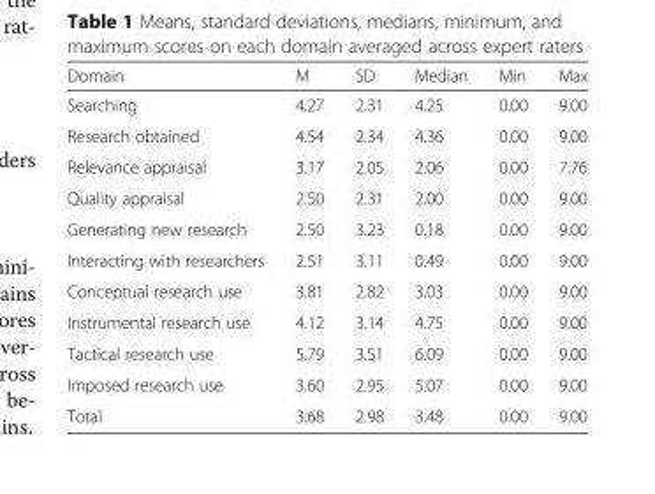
<table><thead><tr><td>Domain</td><td>M</td><td>SD</td><td>Median</td><td>Min</td><td>Max</td></tr></thead><tbody><tr><td>Searching</td><td>4.27</td><td>2.31</td><td>4.25</td><td>0.00</td><td>9.00</td></tr><tr><td>Research obtained</td><td>4.54</td><td>2.34</td><td>4.36</td><td>0.00</td><td>9.00</td></tr><tr><td>Relevance appraisal</td><td>3.17</td><td>2.05</td><td>2.06</td><td>0.00</td><td>7.76</td></tr><tr><td>Quality appraisal</td><td>2.50</td><td>2.31</td><td>2.00</td><td>0.00</td><td>9.00</td></tr><tr><td>Generating new research</td><td>2.50</td><td>3.23</td><td>0.18</td><td>0.00</td><td>9.00</td></tr><tr><td>Interacting with researchers</td><td>2.51</td><td>3.11</td><td>0.49</td><td>0.00</td><td>9.00</td></tr><tr><td>Conceptual research use</td><td>3.81</td><td>2.82</td><td>3.03</td><td>0.00</td><td>9.00</td></tr><tr><td>Instrumental research use</td><td>4.12</td><td>3.14</td><td>4.75</td><td>0.00</td><td>9.00</td></tr><tr><td>Tactical research use</td><td>5.79</td><td>3.51</td><td>6.09</td><td>0.00</td><td>9.00</td></tr><tr><td>Imposed research use</td><td>3.60</td><td>2.95</td><td>5.07</td><td>0.00</td><td>9.00</td></tr><tr><td>Total</td><td>3.68</td><td>2.98</td><td>3.48</td><td>0.00</td><td>9.00</td></tr></tbody></table>